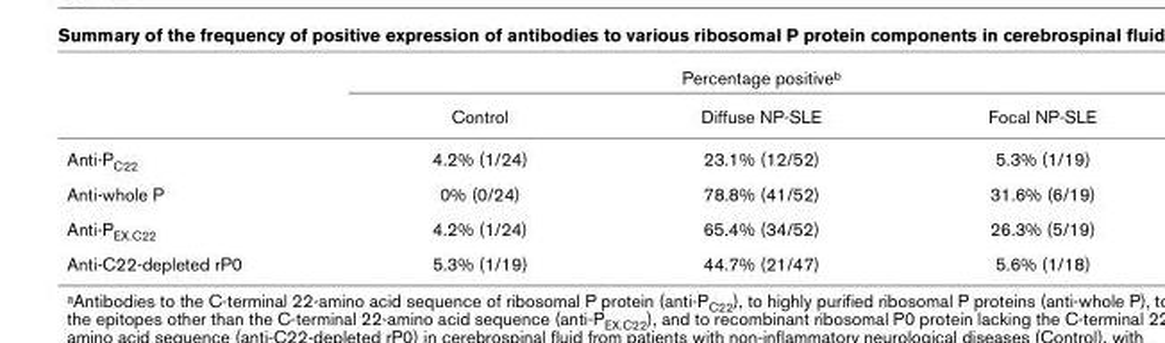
<table><thead><tr><td rowspan="2"></td><td colspan="3">Percentage positive<sup>b</sup></td></tr><tr><td>Control</td><td>Diffuse NP-SLE</td><td>Focal NP-SLE</td></tr></thead><tbody><tr><td>Anti-P<sub>C22</sub></td><td>4.2% (1/24)</td><td>23.1% (12/52)</td><td>5.3% (1/19)</td></tr><tr><td>Anti-whole P</td><td>0% (0/24)</td><td>78.8% (41/52)</td><td>31.6% (6/19)</td></tr><tr><td>Anti-P<sub>EX.C22</sub></td><td>4.2% (1/24)</td><td>65.4% (34/52)</td><td>26.3% (5/19)</td></tr><tr><td>Anti-C22-depleted rP0</td><td>5.3% (1/19)</td><td>44.7% (21/47)</td><td>5.6% (1/18)</td></tr></tbody></table>